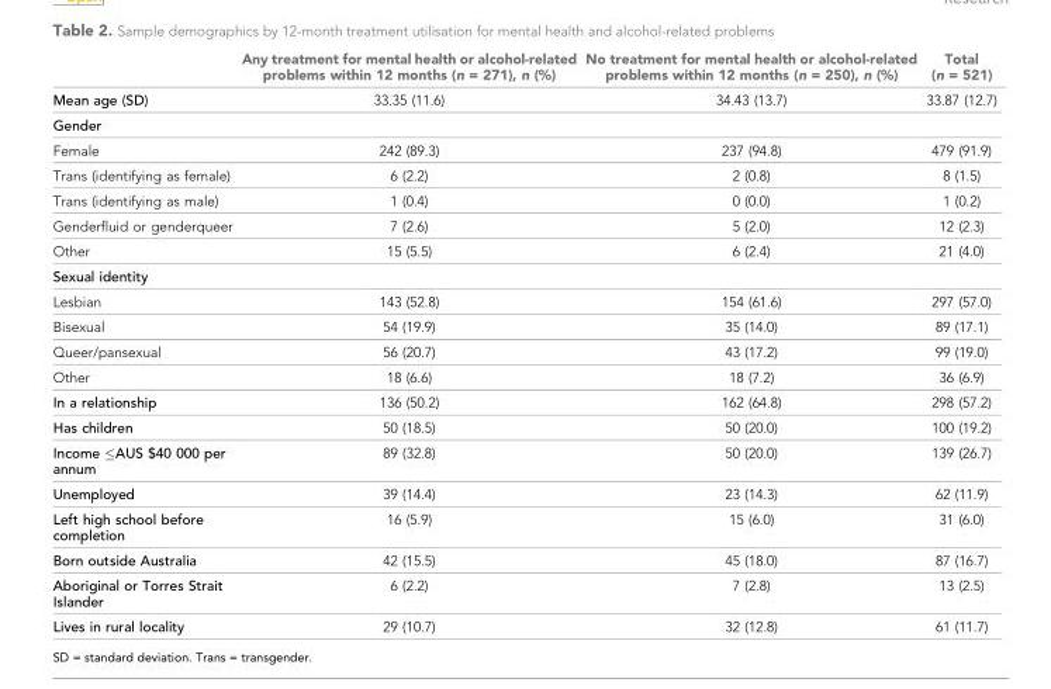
<table><thead><tr><td></td><td>Any treatment for mental health or alcohol-related problems within 12 months (n = 271), n (%)</td><td>No treatment for mental health or alcohol-related problems within 12 months (n = 250), n (%)</td><td>Total (n = 521)</td></tr></thead><tbody><tr><td>Mean age (SD)</td><td>33.35 (11.6)</td><td>34.43 (13.7)</td><td>33.87 (12.7)</td></tr><tr><td colspan="4">Gender</td></tr><tr><td>Female</td><td>242 (89.3)</td><td>237 (94.8)</td><td>479 (91.9)</td></tr><tr><td>Trans (identifying as female)</td><td>6 (2.2)</td><td>2 (0.8)</td><td>8 (1.5)</td></tr><tr><td>Trans (identifying as male)</td><td>1 (0.4)</td><td>0 (0.0)</td><td>1 (0.2)</td></tr><tr><td>Genderfluid or genderqueer</td><td>7 (2.6)</td><td>5 (2.0)</td><td>12 (2.3)</td></tr><tr><td>Other</td><td>15 (5.5)</td><td>6 (2.4)</td><td>21 (4.0)</td></tr><tr><td colspan="4">Sexual identity</td></tr><tr><td>Lesbian</td><td>143 (52.8)</td><td>154 (61.6)</td><td>297 (57.0)</td></tr><tr><td>Bisexual</td><td>54 (19.9)</td><td>35 (14.0)</td><td>89 (17.1)</td></tr><tr><td>Queer/pansexual</td><td>56 (20.7)</td><td>43 (17.2)</td><td>99 (19.0)</td></tr><tr><td>Other</td><td>18 (6.6)</td><td>18 (7.2)</td><td>36 (6.9)</td></tr><tr><td>In a relationship</td><td>136 (50.2)</td><td>162 (64.8)</td><td>298 (57.2)</td></tr><tr><td>Has children</td><td>50 (18.5)</td><td>50 (20.0)</td><td>100 (19.2)</td></tr><tr><td>Income ≤AUS $40 000 per annum</td><td>89 (32.8)</td><td>50 (20.0)</td><td>139 (26.7)</td></tr><tr><td>Unemployed</td><td>39 (14.4)</td><td>23 (14.3)</td><td>62 (11.9)</td></tr><tr><td>Left high school before completion</td><td>16 (5.9)</td><td>15 (6.0)</td><td>31 (6.0)</td></tr><tr><td>Born outside Australia</td><td>42 (15.5)</td><td>45 (18.0)</td><td>87 (16.7)</td></tr><tr><td>Aboriginal or Torres Strait Islander</td><td>6 (2.2)</td><td>7 (2.8)</td><td>13 (2.5)</td></tr><tr><td>Lives in rural locality</td><td>29 (10.7)</td><td>32 (12.8)</td><td>61 (11.7)</td></tr></tbody></table>